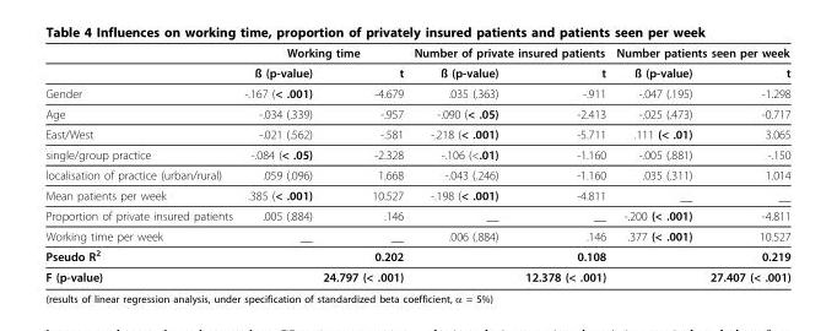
<table><thead><tr><td rowspan="2"></td><td colspan="2">Working time</td><td colspan="2">Number of private insured patients</td><td colspan="2">Number patients seen per week</td></tr><tr><td>ß (p-value)</td><td>t</td><td>ß (p-value)</td><td>t</td><td>ß (p-value)</td><td>t</td></tr></thead><tbody><tr><td>Gender</td><td>-.167 (&lt; .001)</td><td>-4.679</td><td>.035 (.363)</td><td>-.911</td><td>-.047 (.195)</td><td>-1.298</td></tr><tr><td>Age</td><td>-.034 (.339)</td><td>-.957</td><td>-.090 (&lt; .05)</td><td>-2.413</td><td>-.025 (.473)</td><td>-0.717</td></tr><tr><td>East/West</td><td>-.021 (.562)</td><td>-.581</td><td>-.218 (&lt; .001)</td><td>-5.711</td><td>.111 (&lt; .01)</td><td>3.065</td></tr><tr><td>single/group practice</td><td>-.084 (&lt; .05)</td><td>-2.328</td><td>-.106 (&lt;.01)</td><td>-1.160</td><td>-.005 (.881)</td><td>-.150</td></tr><tr><td>localisation of practice (urban/rural)</td><td>.059 (.096)</td><td>1.668</td><td>-.043 (.246)</td><td>-1.160</td><td>.035 (.311)</td><td>1.014</td></tr><tr><td>Mean patients per week</td><td>.385 (&lt; .001)</td><td>10.527</td><td>-.198 (&lt; .001)</td><td>-4.811</td><td>__</td><td>__</td></tr><tr><td>Proportion of private insured patients</td><td>.005 (.884)</td><td>.146</td><td>__</td><td>__</td><td>-.200 (&lt; .001)</td><td>-4.811</td></tr><tr><td>Working time per week</td><td>__</td><td>__</td><td>.006 (.884)</td><td>.146</td><td>.377 (&lt; .001)</td><td>10.527</td></tr><tr><td>Pseudo R<sup>2</sup></td><td></td><td>0.202</td><td></td><td>0.108</td><td></td><td>0.219</td></tr><tr><td>F (p-value)</td><td></td><td>24.797 (&lt; .001)</td><td></td><td>12.378 (&lt; .001)</td><td></td><td>27.407 (&lt; .001)</td></tr></tbody></table>